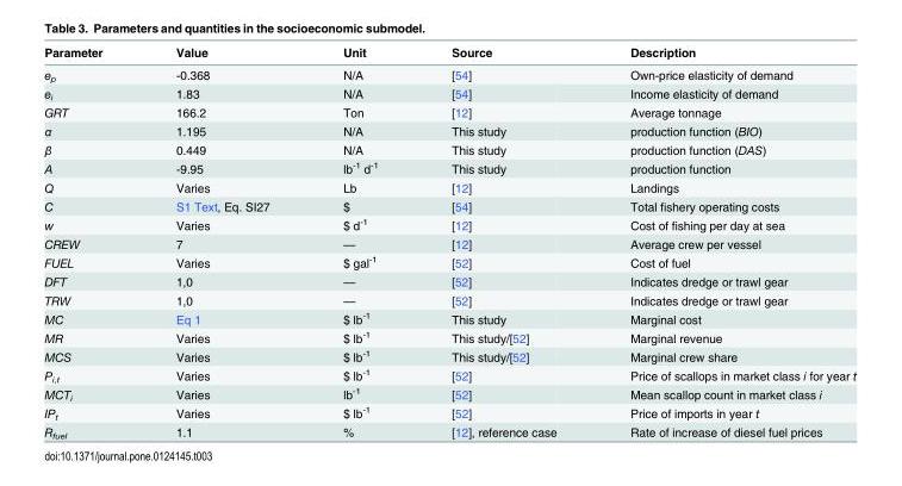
<table><thead><tr><td>Parameter</td><td>Value</td><td>Unit</td><td>Source</td><td>Description</td></tr></thead><tbody><tr><td>e<sub>p</sub></td><td>-0.368</td><td>N/A</td><td>[54]</td><td>Own-price elasticity of demand</td></tr><tr><td>e<sub>i</sub></td><td>1.83</td><td>N/A</td><td>[54]</td><td>Income elasticity of demand</td></tr><tr><td>GRT</td><td>166.2</td><td>Ton</td><td>[12]</td><td>Average tonnage</td></tr><tr><td>α</td><td>1.195</td><td>N/A</td><td>This study</td><td>production function (BIO)</td></tr><tr><td>β</td><td>0.449</td><td>N/A</td><td>This study</td><td>production function (DAS)</td></tr><tr><td>A</td><td>-9.95</td><td>lb<sup>-1</sup> d<sup>-1</sup></td><td>This study</td><td>production function</td></tr><tr><td>Q</td><td>Varies</td><td>Lb</td><td>[12]</td><td>Landings</td></tr><tr><td>C</td><td>S1 Text, Eq. SI27</td><td>$</td><td>[54]</td><td>Total fishery operating costs</td></tr><tr><td>w</td><td>Varies</td><td>$ d<sup>-1</sup></td><td>[12]</td><td>Cost of fishing per day at sea</td></tr><tr><td>CREW</td><td>7</td><td>—</td><td>[12]</td><td>Average crew per vessel</td></tr><tr><td>FUEL</td><td>Varies</td><td>$ gal<sup>-1</sup></td><td>[52]</td><td>Cost of fuel</td></tr><tr><td>DFT</td><td>1,0</td><td>—</td><td>[52]</td><td>Indicates dredge or trawl gear</td></tr><tr><td>TRW</td><td>1,0</td><td>—</td><td>[52]</td><td>Indicates dredge or trawl gear</td></tr><tr><td>MC</td><td>Eq 1</td><td>$ lb<sup>-1</sup></td><td>This study</td><td>Marginal cost</td></tr><tr><td>MR</td><td>Varies</td><td>$ lb<sup>-1</sup></td><td>This study/[52]</td><td>Marginal revenue</td></tr><tr><td>MCS</td><td>Varies</td><td>$ lb<sup>-1</sup></td><td>This study/[52]</td><td>Marginal crew share</td></tr><tr><td>P<sub>i,t</sub></td><td>Varies</td><td>$ lb<sup>-1</sup></td><td>[52]</td><td>Price of scallops in market class i for year t</td></tr><tr><td>MCT<sub>i</sub></td><td>Varies</td><td>lb<sup>-1</sup></td><td>[52]</td><td>Mean scallop count in market class i</td></tr><tr><td>IP<sub>t</sub></td><td>Varies</td><td>$ lb<sup>-1</sup></td><td>[52]</td><td>Price of imports in year t</td></tr><tr><td>R<sub>fuel</sub></td><td>1.1</td><td>%</td><td>[12], reference case</td><td>Rate of increase of diesel fuel prices</td></tr></tbody></table>